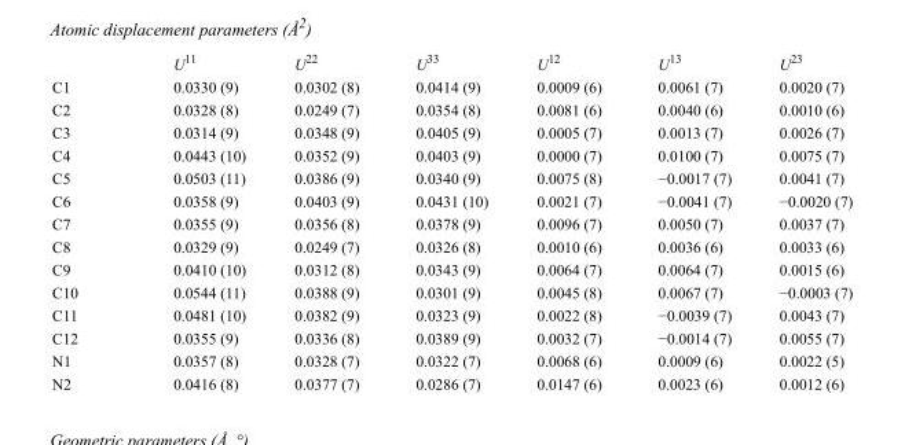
<table><thead><tr><td></td><td>U<sup>11</sup></td><td>U<sup>22</sup></td><td>U<sup>33</sup></td><td>U<sup>12</sup></td><td>U<sup>13</sup></td><td>U<sup>23</sup></td></tr></thead><tbody><tr><td>C1</td><td>0.0330 (9)</td><td>0.0302 (8)</td><td>0.0414 (9)</td><td>0.0009 (6)</td><td>0.0061 (7)</td><td>0.0020 (7)</td></tr><tr><td>C2</td><td>0.0328 (8)</td><td>0.0249 (7)</td><td>0.0354 (8)</td><td>0.0081 (6)</td><td>0.0040 (6)</td><td>0.0010 (6)</td></tr><tr><td>C3</td><td>0.0314 (9)</td><td>0.0348 (9)</td><td>0.0405 (9)</td><td>0.0005 (7)</td><td>0.0013 (7)</td><td>0.0026 (7)</td></tr><tr><td>C4</td><td>0.0443 (10)</td><td>0.0352 (9)</td><td>0.0403 (9)</td><td>0.0000 (7)</td><td>0.0100 (7)</td><td>0.0075 (7)</td></tr><tr><td>C5</td><td>0.0503 (11)</td><td>0.0386 (9)</td><td>0.0340 (9)</td><td>0.0075 (8)</td><td>−0.0017 (7)</td><td>0.0041 (7)</td></tr><tr><td>C6</td><td>0.0358 (9)</td><td>0.0403 (9)</td><td>0.0431 (10)</td><td>0.0021 (7)</td><td>−0.0041 (7)</td><td>−0.0020 (7)</td></tr><tr><td>C7</td><td>0.0355 (9)</td><td>0.0356 (8)</td><td>0.0378 (9)</td><td>0.0096 (7)</td><td>0.0050 (7)</td><td>0.0037 (7)</td></tr><tr><td>C8</td><td>0.0329 (9)</td><td>0.0249 (7)</td><td>0.0326 (8)</td><td>0.0010 (6)</td><td>0.0036 (6)</td><td>0.0033 (6)</td></tr><tr><td>C9</td><td>0.0410 (10)</td><td>0.0312 (8)</td><td>0.0343 (9)</td><td>0.0064 (7)</td><td>0.0064 (7)</td><td>0.0015 (6)</td></tr><tr><td>C10</td><td>0.0544 (11)</td><td>0.0388 (9)</td><td>0.0301 (9)</td><td>0.0045 (8)</td><td>0.0067 (7)</td><td>−0.0003 (7)</td></tr><tr><td>C11</td><td>0.0481 (10)</td><td>0.0382 (9)</td><td>0.0323 (9)</td><td>0.0022 (8)</td><td>−0.0039 (7)</td><td>0.0043 (7)</td></tr><tr><td>C12</td><td>0.0355 (9)</td><td>0.0336 (8)</td><td>0.0389 (9)</td><td>0.0032 (7)</td><td>−0.0014 (7)</td><td>0.0055 (7)</td></tr><tr><td>N1</td><td>0.0357 (8)</td><td>0.0328 (7)</td><td>0.0322 (7)</td><td>0.0068 (6)</td><td>0.0009 (6)</td><td>0.0022 (5)</td></tr><tr><td>N2</td><td>0.0416 (8)</td><td>0.0377 (7)</td><td>0.0286 (7)</td><td>0.0147 (6)</td><td>0.0023 (6)</td><td>0.0012 (6)</td></tr></tbody></table>